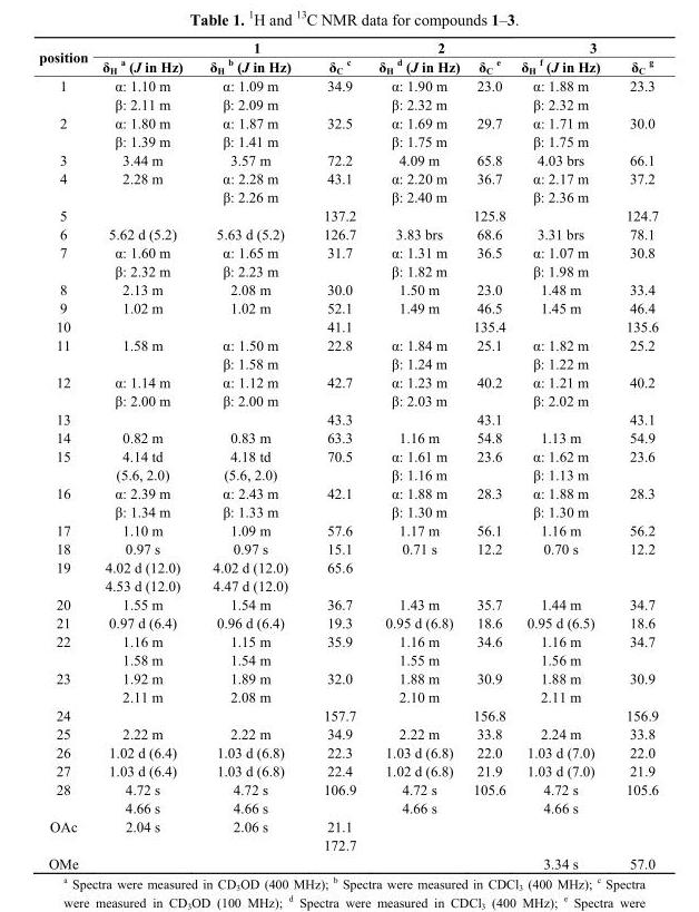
<table><thead><tr><td rowspan="2">position</td><td rowspan="2">δ<sub>H</sub> <sup>a</sup> (J in Hz)</td><td colspan="2">1</td><td colspan="2">2</td><td colspan="2">3</td></tr><tr><td>δ<sub>H</sub> <sup>b</sup> (J in Hz)</td><td>δ<sub>C</sub> <sup>c</sup></td><td>δ<sub>H</sub> <sup>d</sup> (J in Hz)</td><td>δ<sub>C</sub> <sup>e</sup></td><td>δ<sub>H</sub> <sup>f</sup> (J in Hz)</td><td>δ<sub>C</sub> <sup>g</sup></td></tr></thead><tbody><tr><td rowspan="2">1</td><td>α: 1.10 m</td><td>α: 1.09 m</td><td>34.9</td><td>α: 1.90 m</td><td>23.0</td><td>α: 1.88 m</td><td>23.3</td></tr><tr><td>β: 2.11 m</td><td>β: 2.09 m</td><td></td><td>β: 2.32 m</td><td></td><td>β: 2.32 m</td><td></td></tr><tr><td rowspan="2">2</td><td>α: 1.80 m</td><td>α: 1.87 m</td><td>32.5</td><td>α: 1.69 m</td><td>29.7</td><td>α: 1.71 m</td><td>30.0</td></tr><tr><td>β: 1.39 m</td><td>β: 1.41 m</td><td></td><td>β: 1.75 m</td><td></td><td>β: 1.75 m</td><td></td></tr><tr><td>3</td><td>3.44 m</td><td>3.57 m</td><td>72.2</td><td>4.09 m</td><td>65.8</td><td>4.03 brs</td><td>66.1</td></tr><tr><td rowspan="2">4</td><td>2.28 m</td><td>α: 2.28 m</td><td>43.1</td><td>α: 2.20 m</td><td>36.7</td><td>α: 2.17 m</td><td>37.2</td></tr><tr><td></td><td>β: 2.26 m</td><td></td><td>β: 2.40 m</td><td></td><td>β: 2.36 m</td><td></td></tr><tr><td>5</td><td></td><td></td><td>137.2</td><td></td><td>125.8</td><td></td><td>124.7</td></tr><tr><td>6</td><td>5.62 d (5.2)</td><td>5.63 d (5.2)</td><td>126.7</td><td>3.83 brs</td><td>68.6</td><td>3.31 brs</td><td>78.1</td></tr><tr><td rowspan="2">7</td><td>α: 1.60 m</td><td>α: 1.65 m</td><td>31.7</td><td>α: 1.31 m</td><td>36.5</td><td>α: 1.07 m</td><td>30.8</td></tr><tr><td>β: 2.32 m</td><td>β: 2.23 m</td><td></td><td>β: 1.82 m</td><td></td><td>β: 1.98 m</td><td></td></tr><tr><td>8</td><td>2.13 m</td><td>2.08 m</td><td>30.0</td><td>1.50 m</td><td>23.0</td><td>1.48 m</td><td>33.4</td></tr><tr><td>9</td><td>1.02 m</td><td>1.02 m</td><td>52.1</td><td>1.49 m</td><td>46.5</td><td>1.45 m</td><td>46.4</td></tr><tr><td>10</td><td></td><td></td><td>41.1</td><td></td><td>135.4</td><td></td><td>135.6</td></tr><tr><td rowspan="2">11</td><td>1.58 m</td><td>α: 1.50 m</td><td>22.8</td><td>α: 1.84 m</td><td>25.1</td><td>α: 1.82 m</td><td>25.2</td></tr><tr><td></td><td>β: 1.58 m</td><td></td><td>β: 1.24 m</td><td></td><td>β: 1.22 m</td><td></td></tr><tr><td rowspan="2">12</td><td>α: 1.14 m</td><td>α: 1.12 m</td><td>42.7</td><td>α: 1.23 m</td><td>40.2</td><td>α: 1.21 m</td><td>40.2</td></tr><tr><td>β: 2.00 m</td><td>β: 2.00 m</td><td></td><td>β: 2.03 m</td><td></td><td>β: 2.02 m</td><td></td></tr><tr><td>13</td><td></td><td></td><td>43.3</td><td></td><td>43.1</td><td></td><td>43.1</td></tr><tr><td>14</td><td>0.82 m</td><td>0.83 m</td><td>63.3</td><td>1.16 m</td><td>54.8</td><td>1.13 m</td><td>54.9</td></tr><tr><td rowspan="2">15</td><td>4.14 td</td><td>4.18 td</td><td>70.5</td><td>α: 1.61 m</td><td>23.6</td><td>α: 1.62 m</td><td>23.6</td></tr><tr><td>(5.6, 2.0)</td><td>(5.6, 2.0)</td><td></td><td>β: 1.16 m</td><td></td><td>β: 1.13 m</td><td></td></tr><tr><td rowspan="2">16</td><td>α: 2.39 m</td><td>α: 2.43 m</td><td>42.1</td><td>α: 1.88 m</td><td>28.3</td><td>α: 1.88 m</td><td>28.3</td></tr><tr><td>β: 1.34 m</td><td>β: 1.33 m</td><td></td><td>β: 1.30 m</td><td></td><td>β: 1.30 m</td><td></td></tr><tr><td>17</td><td>1.10 m</td><td>1.09 m</td><td>57.6</td><td>1.17 m</td><td>56.1</td><td>1.16 m</td><td>56.2</td></tr><tr><td>18</td><td>0.97 s</td><td>0.97 s</td><td>15.1</td><td>0.71 s</td><td>12.2</td><td>0.70 s</td><td>12.2</td></tr><tr><td rowspan="2">19</td><td>4.02 d (12.0)</td><td>4.02 d (12.0)</td><td>65.6</td><td></td><td></td><td></td><td></td></tr><tr><td>4.53 d (12.0)</td><td>4.47 d (12.0)</td><td></td><td></td><td></td><td></td><td></td></tr><tr><td>20</td><td>1.55 m</td><td>1.54 m</td><td>36.7</td><td>1.43 m</td><td>35.7</td><td>1.44 m</td><td>34.7</td></tr><tr><td>21</td><td>0.97 d (6.4)</td><td>0.96 d (6.4)</td><td>19.3</td><td>0.95 d (6.8)</td><td>18.6</td><td>0.95 d (6.5)</td><td>18.6</td></tr><tr><td rowspan="2">22</td><td>1.16 m</td><td>1.15 m</td><td>35.9</td><td>1.16 m</td><td>34.6</td><td>1.16 m</td><td>34.7</td></tr><tr><td>1.58 m</td><td>1.54 m</td><td></td><td>1.55 m</td><td></td><td>1.56 m</td><td></td></tr><tr><td rowspan="2">23</td><td>1.92 m</td><td>1.89 m</td><td>32.0</td><td>1.88 m</td><td>30.9</td><td>1.88 m</td><td>30.9</td></tr><tr><td>2.11 m</td><td>2.08 m</td><td></td><td>2.10 m</td><td></td><td>2.11 m</td><td></td></tr><tr><td>24</td><td></td><td></td><td>157.7</td><td></td><td>156.8</td><td></td><td>156.9</td></tr><tr><td>25</td><td>2.22 m</td><td>2.22 m</td><td>34.9</td><td>2.22 m</td><td>33.8</td><td>2.24 m</td><td>33.8</td></tr><tr><td>26</td><td>1.02 d (6.4)</td><td>1.03 d (6.8)</td><td>22.3</td><td>1.03 d (6.8)</td><td>22.0</td><td>1.03 d (7.0)</td><td>22.0</td></tr><tr><td>27</td><td>1.03 d (6.4)</td><td>1.03 d (6.8)</td><td>22.4</td><td>1.02 d (6.8)</td><td>21.9</td><td>1.03 d (7.0)</td><td>21.9</td></tr><tr><td rowspan="2">28</td><td>4.72 s</td><td>4.72 s</td><td>106.9</td><td>4.72 s</td><td>105.6</td><td>4.72 s</td><td>105.6</td></tr><tr><td>4.66 s</td><td>4.66 s</td><td></td><td>4.66 s</td><td></td><td>4.66 s</td><td></td></tr><tr><td rowspan="2">OAc</td><td>2.04 s</td><td>2.06 s</td><td>21.1</td><td></td><td></td><td></td><td></td></tr><tr><td></td><td></td><td>172.7</td><td></td><td></td><td></td><td></td></tr><tr><td>OMe</td><td></td><td></td><td></td><td></td><td></td><td>3.34 s</td><td>57.0</td></tr></tbody></table>